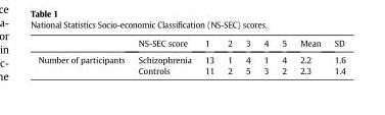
<table><thead><tr><td></td><td>NS-SEC score</td><td>1</td><td>2</td><td>3</td><td>4</td><td>5</td><td>Mean</td><td>SD</td></tr></thead><tbody><tr><td rowspan="2">Number of participants</td><td>Schizophrenia</td><td>13</td><td>1</td><td>4</td><td>1</td><td>4</td><td>2.2</td><td>1.6</td></tr><tr><td>Controls</td><td>11</td><td>2</td><td>5</td><td>3</td><td>2</td><td>2.3</td><td>1.4</td></tr></tbody></table>